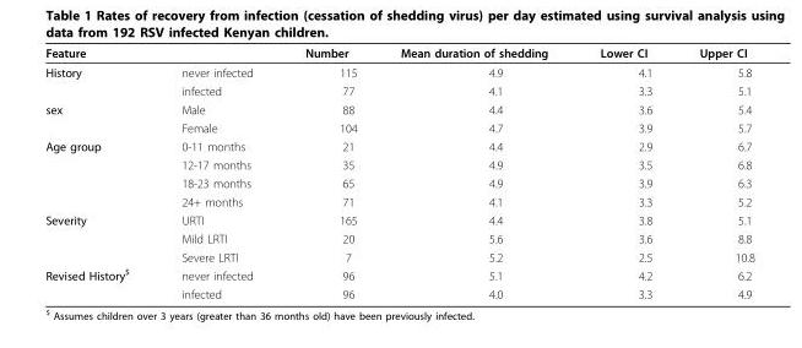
<table><thead><tr><td>Feature</td><td></td><td>Number</td><td>Mean duration of shedding</td><td>Lower CI</td><td>Upper CI</td></tr></thead><tbody><tr><td rowspan="2">History</td><td>never infected</td><td>115</td><td>4.9</td><td>4.1</td><td>5.8</td></tr><tr><td>infected</td><td>77</td><td>4.1</td><td>3.3</td><td>5.1</td></tr><tr><td rowspan="2">sex</td><td>Male</td><td>88</td><td>4.4</td><td>3.6</td><td>5.4</td></tr><tr><td>Female</td><td>104</td><td>4.7</td><td>3.9</td><td>5.7</td></tr><tr><td rowspan="4">Age group</td><td>0-11 months</td><td>21</td><td>4.4</td><td>2.9</td><td>6.7</td></tr><tr><td>12-17 months</td><td>35</td><td>4.9</td><td>3.5</td><td>6.8</td></tr><tr><td>18-23 months</td><td>65</td><td>4.9</td><td>3.9</td><td>6.3</td></tr><tr><td>24+ months</td><td>71</td><td>4.1</td><td>3.3</td><td>5.2</td></tr><tr><td rowspan="3">Severity</td><td>URTI</td><td>165</td><td>4.4</td><td>3.8</td><td>5.1</td></tr><tr><td>Mild LRTI</td><td>20</td><td>5.6</td><td>3.6</td><td>8.8</td></tr><tr><td>Severe LRTI</td><td>7</td><td>5.2</td><td>2.5</td><td>10.8</td></tr><tr><td rowspan="2">Revised History<sup>$</sup></td><td>never infected</td><td>96</td><td>5.1</td><td>4.2</td><td>6.2</td></tr><tr><td>infected</td><td>96</td><td>4.0</td><td>3.3</td><td>4.9</td></tr></tbody></table>